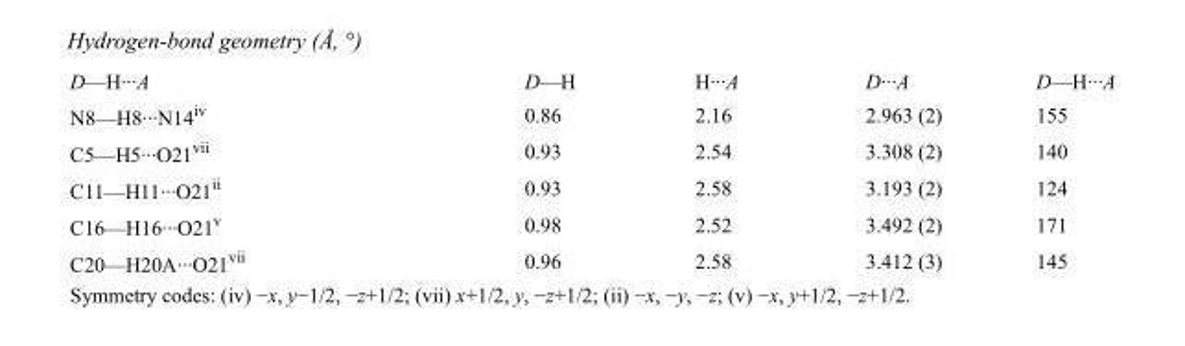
<table><tbody><tr><td>D—H···A</td><td>D—H</td><td>H···A</td><td>D···A</td><td>D—H···A</td></tr><tr><td>N8—H8···N14<sup>iv</sup></td><td>0.86</td><td>2.16</td><td>2.963 (2)</td><td>155</td></tr><tr><td>C5—H5···O21<sup>vii</sup></td><td>0.93</td><td>2.54</td><td>3.308 (2)</td><td>140</td></tr><tr><td>C11—H11···O21<sup>ii</sup></td><td>0.93</td><td>2.58</td><td>3.193 (2)</td><td>124</td></tr><tr><td>C16—H16···O21<sup>v</sup></td><td>0.98</td><td>2.52</td><td>3.492 (2)</td><td>171</td></tr><tr><td>C20—H20A···O21<sup>vii</sup></td><td>0.96</td><td>2.58</td><td>3.412 (3)</td><td>145</td></tr></tbody></table>